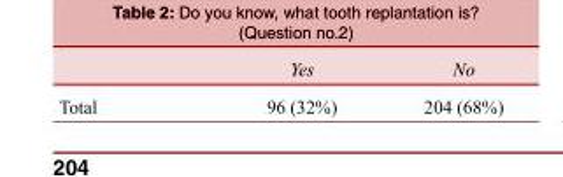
<table><thead><tr><td></td><td>Yes</td><td>No</td></tr></thead><tbody><tr><td>Total</td><td>96 (32%)</td><td>204 (68%)</td></tr></tbody></table>